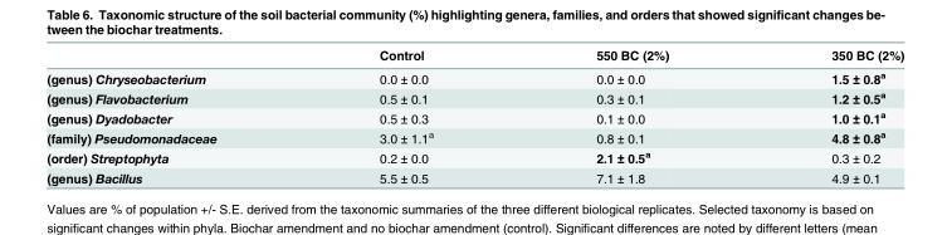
<table><thead><tr><td></td><td>Control</td><td>550 BC (2%)</td><td>350 BC (2%)</td></tr></thead><tbody><tr><td>(genus) Chryseobacterium</td><td>0.0 ± 0.0</td><td>0.0 ± 0.0</td><td>1.5 ± 0.8<sup>a</sup></td></tr><tr><td>(genus) Flavobacterium</td><td>0.5 ± 0.1</td><td>0.3 ± 0.1</td><td>1.2 ± 0.5<sup>a</sup></td></tr><tr><td>(genus) Dyadobacter</td><td>0.5 ± 0.3</td><td>0.1 ± 0.0</td><td>1.0 ± 0.1<sup>a</sup></td></tr><tr><td>(family) Pseudomonadaceae</td><td>3.0 ± 1.1<sup>a</sup></td><td>0.8 ± 0.1</td><td>4.8 ± 0.8<sup>a</sup></td></tr><tr><td>(order) Streptophyta</td><td>0.2 ± 0.0</td><td>2.1 ± 0.5<sup>a</sup></td><td>0.3 ± 0.2</td></tr><tr><td>(genus) Bacillus</td><td>5.5 ± 0.5</td><td>7.1 ± 1.8</td><td>4.9 ± 0.1</td></tr></tbody></table>